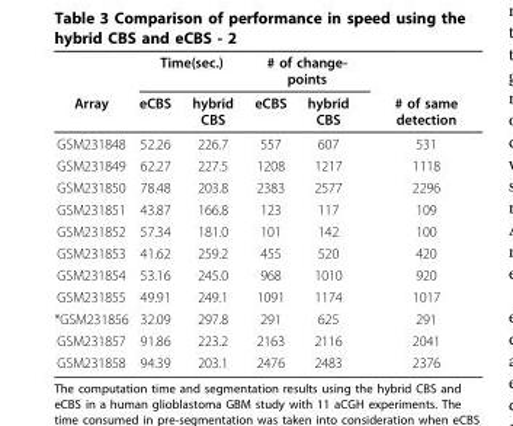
<table><thead><tr><td rowspan="2">Array</td><td colspan="2">Time(sec.)</td><td colspan="2"># of change- points</td><td rowspan="2"># of same detection</td></tr><tr><td>eCBS</td><td>hybrid CBS</td><td>eCBS</td><td>hybrid CBS</td></tr></thead><tbody><tr><td>GSM231848</td><td>52.26</td><td>226.7</td><td>557</td><td>607</td><td>531</td></tr><tr><td>GSM231849</td><td>62.27</td><td>227.5</td><td>1208</td><td>1217</td><td>1118</td></tr><tr><td>GSM231850</td><td>78.48</td><td>203.8</td><td>2383</td><td>2577</td><td>2296</td></tr><tr><td>GSM231851</td><td>43.87</td><td>166.8</td><td>123</td><td>117</td><td>109</td></tr><tr><td>GSM231852</td><td>57.34</td><td>181.0</td><td>101</td><td>142</td><td>100</td></tr><tr><td>GSM231853</td><td>41.62</td><td>259.2</td><td>455</td><td>520</td><td>420</td></tr><tr><td>GSM231854</td><td>53.16</td><td>245.0</td><td>968</td><td>1010</td><td>920</td></tr><tr><td>GSM231855</td><td>49.91</td><td>249.1</td><td>1091</td><td>1174</td><td>1017</td></tr><tr><td>*GSM231856</td><td>32.09</td><td>297.8</td><td>291</td><td>625</td><td>291</td></tr><tr><td>GSM231857</td><td>91.86</td><td>223.2</td><td>2163</td><td>2116</td><td>2041</td></tr><tr><td>GSM231858</td><td>94.39</td><td>203.1</td><td>2476</td><td>2483</td><td>2376</td></tr></tbody></table>